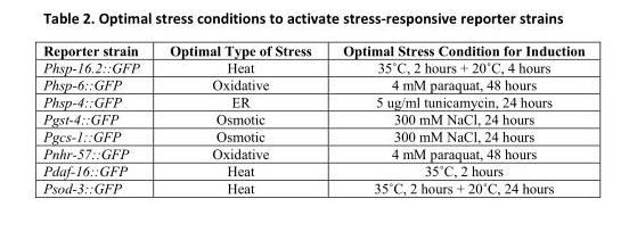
<table><thead><tr><td>Reporter strain</td><td>Optimal Type of Stress</td><td>Optimal Stress Condition for Induction</td></tr></thead><tbody><tr><td>Phsp-16.2::GFP</td><td>Heat</td><td>35˚C, 2 hours + 20˚C, 4 hours</td></tr><tr><td>Phsp-6::GFP</td><td>Oxidative</td><td>4 mM paraquat, 48 hours</td></tr><tr><td>Phsp-4::GFP</td><td>ER</td><td>5 ug/ml tunicamycin, 24 hours</td></tr><tr><td>Pgst-4::GFP</td><td>Osmotic</td><td>300 mM NaCl, 24 hours</td></tr><tr><td>Pgcs-1::GFP</td><td>Osmotic</td><td>300 mM NaCl, 24 hours</td></tr><tr><td>Pnhr-57::GFP</td><td>Oxidative</td><td>4 mM paraquat, 48 hours</td></tr><tr><td>Pdaf-16::GFP</td><td>Heat</td><td>35˚C, 2 hours</td></tr><tr><td>Psod-3::GFP</td><td>Heat</td><td>35˚C, 2 hours + 20˚C, 24 hours</td></tr></tbody></table>